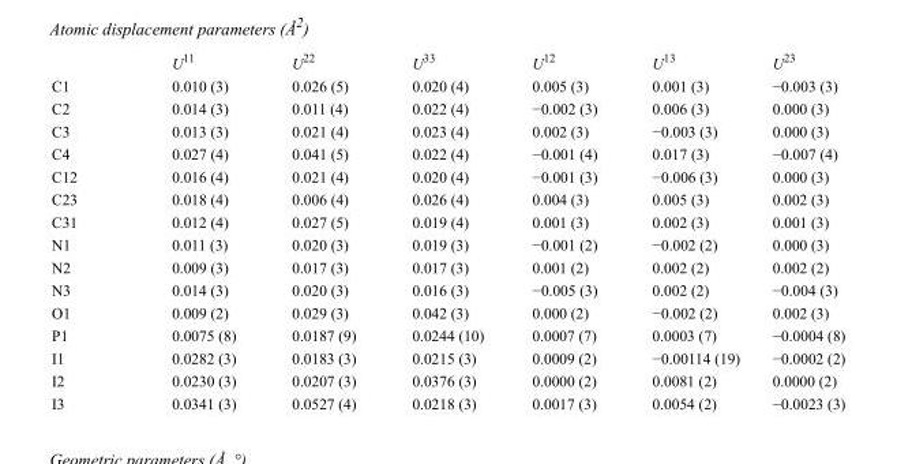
<table><thead><tr><td></td><td>U<sup>11</sup></td><td>U<sup>22</sup></td><td>U<sup>33</sup></td><td>U<sup>12</sup></td><td>U<sup>13</sup></td><td>U<sup>23</sup></td></tr></thead><tbody><tr><td>C1</td><td>0.010 (3)</td><td>0.026 (5)</td><td>0.020 (4)</td><td>0.005 (3)</td><td>0.001 (3)</td><td>−0.003 (3)</td></tr><tr><td>C2</td><td>0.014 (3)</td><td>0.011 (4)</td><td>0.022 (4)</td><td>−0.002 (3)</td><td>0.006 (3)</td><td>0.000 (3)</td></tr><tr><td>C3</td><td>0.013 (3)</td><td>0.021 (4)</td><td>0.023 (4)</td><td>0.002 (3)</td><td>−0.003 (3)</td><td>0.000 (3)</td></tr><tr><td>C4</td><td>0.027 (4)</td><td>0.041 (5)</td><td>0.022 (4)</td><td>−0.001 (4)</td><td>0.017 (3)</td><td>−0.007 (4)</td></tr><tr><td>C12</td><td>0.016 (4)</td><td>0.021 (4)</td><td>0.020 (4)</td><td>−0.001 (3)</td><td>−0.006 (3)</td><td>0.000 (3)</td></tr><tr><td>C23</td><td>0.018 (4)</td><td>0.006 (4)</td><td>0.026 (4)</td><td>0.004 (3)</td><td>0.005 (3)</td><td>0.002 (3)</td></tr><tr><td>C31</td><td>0.012 (4)</td><td>0.027 (5)</td><td>0.019 (4)</td><td>0.001 (3)</td><td>0.002 (3)</td><td>0.001 (3)</td></tr><tr><td>N1</td><td>0.011 (3)</td><td>0.020 (3)</td><td>0.019 (3)</td><td>−0.001 (2)</td><td>−0.002 (2)</td><td>0.000 (3)</td></tr><tr><td>N2</td><td>0.009 (3)</td><td>0.017 (3)</td><td>0.017 (3)</td><td>0.001 (2)</td><td>0.002 (2)</td><td>0.002 (2)</td></tr><tr><td>N3</td><td>0.014 (3)</td><td>0.020 (3)</td><td>0.016 (3)</td><td>−0.005 (3)</td><td>0.002 (2)</td><td>−0.004 (3)</td></tr><tr><td>O1</td><td>0.009 (2)</td><td>0.029 (3)</td><td>0.042 (3)</td><td>0.000 (2)</td><td>−0.002 (2)</td><td>0.002 (3)</td></tr><tr><td>P1</td><td>0.0075 (8)</td><td>0.0187 (9)</td><td>0.0244 (10)</td><td>0.0007 (7)</td><td>0.0003 (7)</td><td>−0.0004 (8)</td></tr><tr><td>I1</td><td>0.0282 (3)</td><td>0.0183 (3)</td><td>0.0215 (3)</td><td>0.0009 (2)</td><td>−0.00114 (19)</td><td>−0.0002 (2)</td></tr><tr><td>I2</td><td>0.0230 (3)</td><td>0.0207 (3)</td><td>0.0376 (3)</td><td>0.0000 (2)</td><td>0.0081 (2)</td><td>0.0000 (2)</td></tr><tr><td>I3</td><td>0.0341 (3)</td><td>0.0527 (4)</td><td>0.0218 (3)</td><td>0.0017 (3)</td><td>0.0054 (2)</td><td>−0.0023 (3)</td></tr></tbody></table>